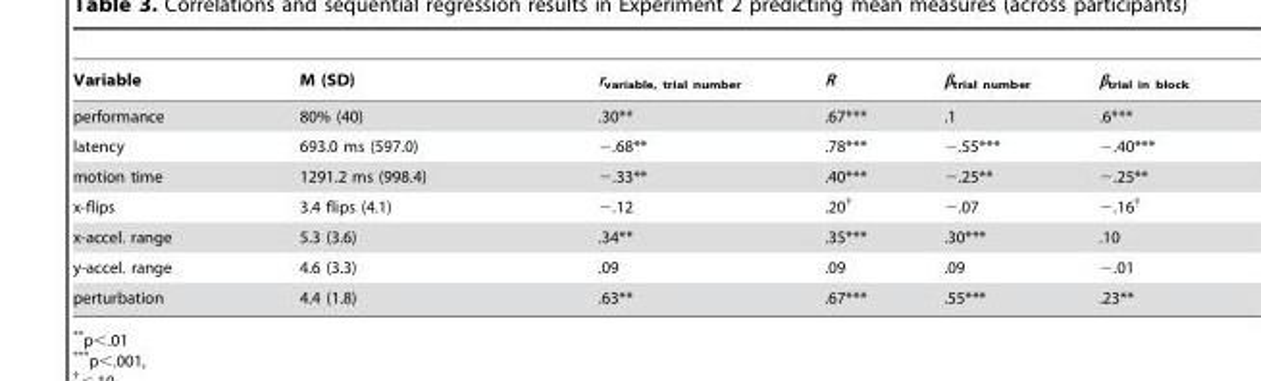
<table><thead><tr><td>Variable</td><td>M (SD)</td><td>r<sub>variable, trial number</sub></td><td>R</td><td>β<sub>trial number</sub></td><td>β<sub>trial in block</sub></td></tr></thead><tbody><tr><td>performance</td><td>80% (40)</td><td>.30**</td><td>.67***</td><td>.1</td><td>.6***</td></tr><tr><td>latency</td><td>693.0 ms (597.0)</td><td>−.68**</td><td>.78***</td><td>−.55***</td><td>−.40***</td></tr><tr><td>motion time</td><td>1291.2 ms (998.4)</td><td>−.33**</td><td>.40***</td><td>−.25**</td><td>−.25**</td></tr><tr><td>x-flips</td><td>3.4 flips (4.1)</td><td>−.12</td><td>.20†</td><td>−.07</td><td>−.16†</td></tr><tr><td>x-accel. range</td><td>5.3 (3.6)</td><td>.34**</td><td>.35***</td><td>.30***</td><td>.10</td></tr><tr><td>y-accel. range</td><td>4.6 (3.3)</td><td>.09</td><td>.09</td><td>.09</td><td>−.01</td></tr><tr><td>perturbation</td><td>4.4 (1.8)</td><td>.63**</td><td>.67***</td><td>.55***</td><td>.23**</td></tr></tbody></table>